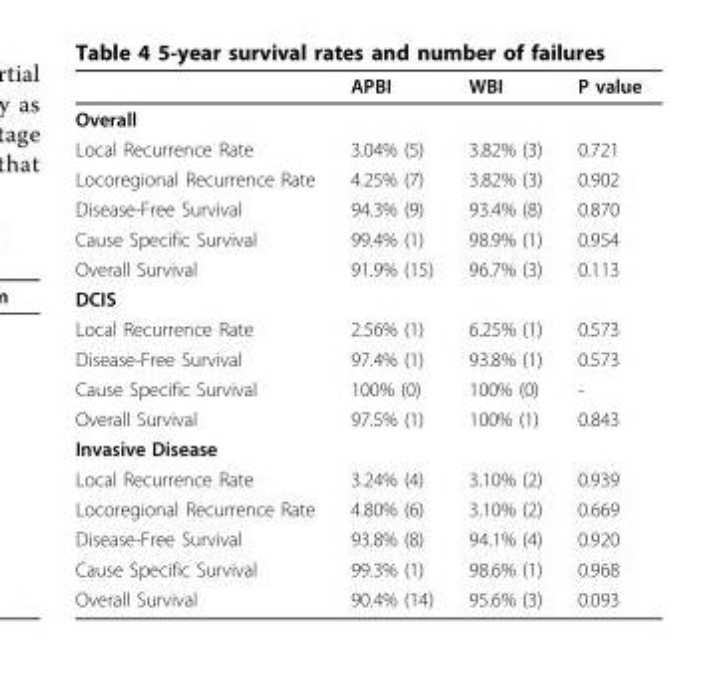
<table><thead><tr><td></td><td>APBI</td><td>WBI</td><td>P value</td></tr></thead><tbody><tr><td colspan="4">Overall</td></tr><tr><td>Local Recurrence Rate</td><td>3.04% (5)</td><td>3.82% (3)</td><td>0.721</td></tr><tr><td>Locoregional Recurrence Rate</td><td>4.25% (7)</td><td>3.82% (3)</td><td>0.902</td></tr><tr><td>Disease-Free Survival</td><td>94.3% (9)</td><td>93.4% (8)</td><td>0.870</td></tr><tr><td>Cause Specific Survival</td><td>99.4% (1)</td><td>98.9% (1)</td><td>0.954</td></tr><tr><td>Overall Survival</td><td>91.9% (15)</td><td>96.7% (3)</td><td>0.113</td></tr><tr><td colspan="4">DCIS</td></tr><tr><td>Local Recurrence Rate</td><td>2.56% (1)</td><td>6.25% (1)</td><td>0.573</td></tr><tr><td>Disease-Free Survival</td><td>97.4% (1)</td><td>93.8% (1)</td><td>0.573</td></tr><tr><td>Cause Specific Survival</td><td>100% (0)</td><td>100% (0)</td><td>-</td></tr><tr><td>Overall Survival</td><td>97.5% (1)</td><td>100% (1)</td><td>0.843</td></tr><tr><td colspan="4">Invasive Disease</td></tr><tr><td>Local Recurrence Rate</td><td>3.24% (4)</td><td>3.10% (2)</td><td>0.939</td></tr><tr><td>Locoregional Recurrence Rate</td><td>4.80% (6)</td><td>3.10% (2)</td><td>0.669</td></tr><tr><td>Disease-Free Survival</td><td>93.8% (8)</td><td>94.1% (4)</td><td>0.920</td></tr><tr><td>Cause Specific Survival</td><td>99.3% (1)</td><td>98.6% (1)</td><td>0.968</td></tr><tr><td>Overall Survival</td><td>90.4% (14)</td><td>95.6% (3)</td><td>0.093</td></tr></tbody></table>